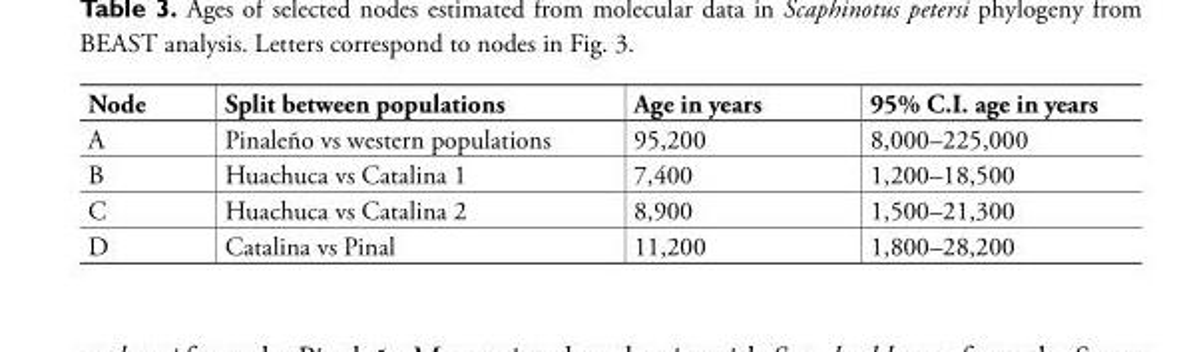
<table><thead><tr><td>Node</td><td>Split between populations</td><td>Age in years</td><td>95% C.I. age in years</td></tr></thead><tbody><tr><td>A</td><td>Pinaleño vs western populations</td><td>95,200</td><td>8,000–225,000</td></tr><tr><td>B</td><td>Huachuca vs Catalina 1</td><td>7,400</td><td>1,200–18,500</td></tr><tr><td>C</td><td>Huachuca vs Catalina 2</td><td>8,900</td><td>1,500–21,300</td></tr><tr><td>D</td><td>Catalina vs Pinal</td><td>11,200</td><td>1,800–28,200</td></tr></tbody></table>